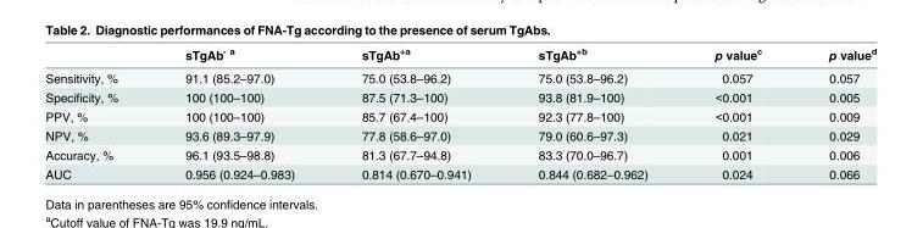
<table><thead><tr><td></td><td>sTgAb<sup>- a</sup></td><td>sTgAb<sup>+a</sup></td><td>sTgAb<sup>+b</sup></td><td>p value<sup>c</sup></td><td>p value<sup>d</sup></td></tr></thead><tbody><tr><td>Sensitivity, %</td><td>91.1 (85.2–97.0)</td><td>75.0 (53.8–96.2)</td><td>75.0 (53.8–96.2)</td><td>0.057</td><td>0.057</td></tr><tr><td>Specificity, %</td><td>100 (100–100)</td><td>87.5 (71.3–100)</td><td>93.8 (81.9–100)</td><td>&lt;0.001</td><td>0.005</td></tr><tr><td>PPV, %</td><td>100 (100–100)</td><td>85.7 (67.4–100)</td><td>92.3 (77.8–100)</td><td>&lt;0.001</td><td>0.009</td></tr><tr><td>NPV, %</td><td>93.6 (89.3–97.9)</td><td>77.8 (58.6–97.0)</td><td>79.0 (60.6–97.3)</td><td>0.021</td><td>0.029</td></tr><tr><td>Accuracy, %</td><td>96.1 (93.5–98.8)</td><td>81.3 (67.7–94.8)</td><td>83.3 (70.0–96.7)</td><td>0.001</td><td>0.006</td></tr><tr><td>AUC</td><td>0.956 (0.924–0.983)</td><td>0.814 (0.670–0.941)</td><td>0.844 (0.682–0.962)</td><td>0.024</td><td>0.066</td></tr></tbody></table>